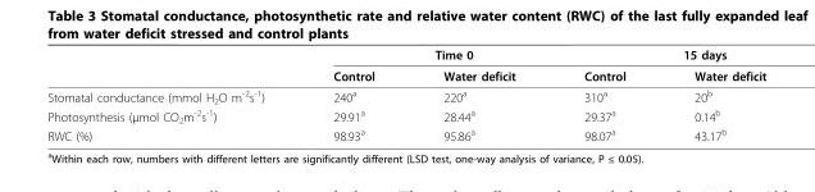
<table><thead><tr><td rowspan="2"></td><td colspan="2">Time 0</td><td colspan="2">15 days</td></tr><tr><td>Control</td><td>Water deficit</td><td>Control</td><td>Water deficit</td></tr></thead><tbody><tr><td>Stomatal conductance (mmol H<sub>2</sub>O m<sup>-2</sup>s<sup>-1</sup>)</td><td>240<sup>a</sup></td><td>220<sup>a</sup></td><td>310<sup>a</sup></td><td>20<sup>b</sup></td></tr><tr><td>Photosynthesis (μmol CO<sub>2</sub>m<sup>-2</sup>s<sup>-1</sup>)</td><td>29.91<sup>a</sup></td><td>28.44<sup>a</sup></td><td>29.37<sup>a</sup></td><td>0.14<sup>b</sup></td></tr><tr><td>RWC (%)</td><td>98.93<sup>a</sup></td><td>95.86<sup>a</sup></td><td>98.07<sup>a</sup></td><td>43.17<sup>b</sup></td></tr></tbody></table>